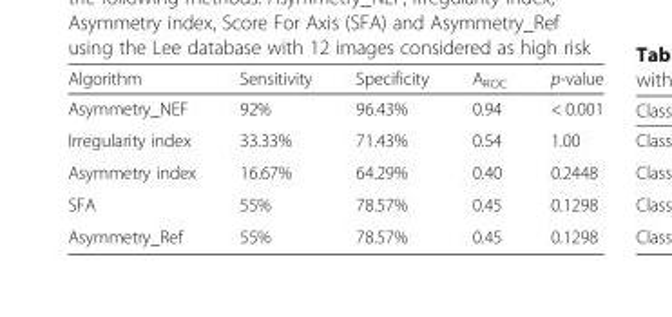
<table><thead><tr><td>Algorithm</td><td>Sensitivity</td><td>Specificity</td><td>A<sub>ROC</sub></td><td>p-value</td></tr></thead><tbody><tr><td>Asymmetry_NEF</td><td>92%</td><td>96.43%</td><td>0.94</td><td>&lt; 0.001</td></tr><tr><td>Irregularity index</td><td>33.33%</td><td>71.43%</td><td>0.54</td><td>1.00</td></tr><tr><td>Asymmetry index</td><td>16.67%</td><td>64.29%</td><td>0.40</td><td>0.2448</td></tr><tr><td>SFA</td><td>55%</td><td>78.57%</td><td>0.45</td><td>0.1298</td></tr><tr><td>Asymmetry_Ref</td><td>55%</td><td>78.57%</td><td>0.45</td><td>0.1298</td></tr></tbody></table>